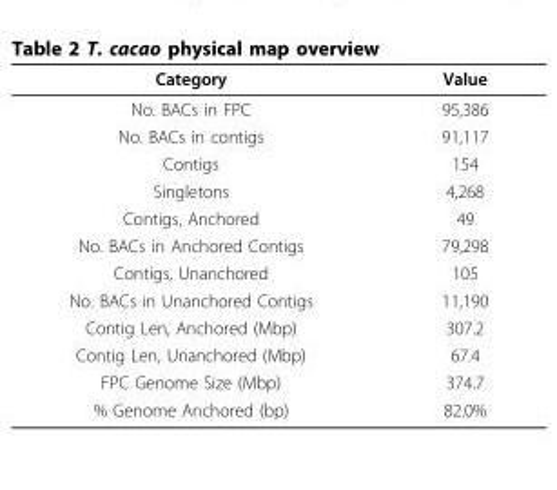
<table><thead><tr><td>Category</td><td>Value</td></tr></thead><tbody><tr><td>No. BACs in FPC</td><td>95,386</td></tr><tr><td>No. BACs in contigs</td><td>91,117</td></tr><tr><td>Contigs</td><td>154</td></tr><tr><td>Singletons</td><td>4,268</td></tr><tr><td>Contigs, Anchored</td><td>49</td></tr><tr><td>No. BACs in Anchored Contigs</td><td>79,298</td></tr><tr><td>Contigs, Unanchored</td><td>105</td></tr><tr><td>No. BACs in Unanchored Contigs</td><td>11,190</td></tr><tr><td>Contig Len, Anchored (Mbp)</td><td>307.2</td></tr><tr><td>Contig Len, Unanchored (Mbp)</td><td>67.4</td></tr><tr><td>FPC Genome Size (Mbp)</td><td>374.7</td></tr><tr><td>% Genome Anchored (bp)</td><td>82.0%</td></tr></tbody></table>